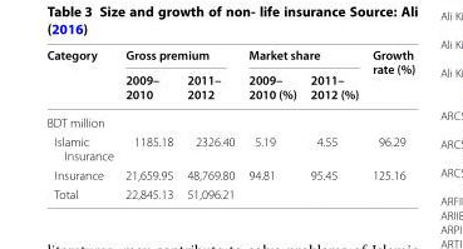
<table><thead><tr><td rowspan="2">Category</td><td colspan="2">Gross premium</td><td colspan="2">Market share</td><td rowspan="2">Growth rate (%)</td></tr><tr><td>2009– 2010</td><td>2011– 2012</td><td>2009– 2010 (%)</td><td>2011– 2012 (%)</td></tr></thead><tbody><tr><td colspan="6">BDT million</td></tr><tr><td>Islamic Insurance</td><td>1185.18</td><td>2326.40</td><td>5.19</td><td>4.55</td><td>96.29</td></tr><tr><td>Insurance</td><td>21,659.95</td><td>48,769.80</td><td>94.81</td><td>95.45</td><td>125.16</td></tr><tr><td>Total</td><td>22,845.13</td><td>51,096.21</td><td></td><td></td><td></td></tr></tbody></table>